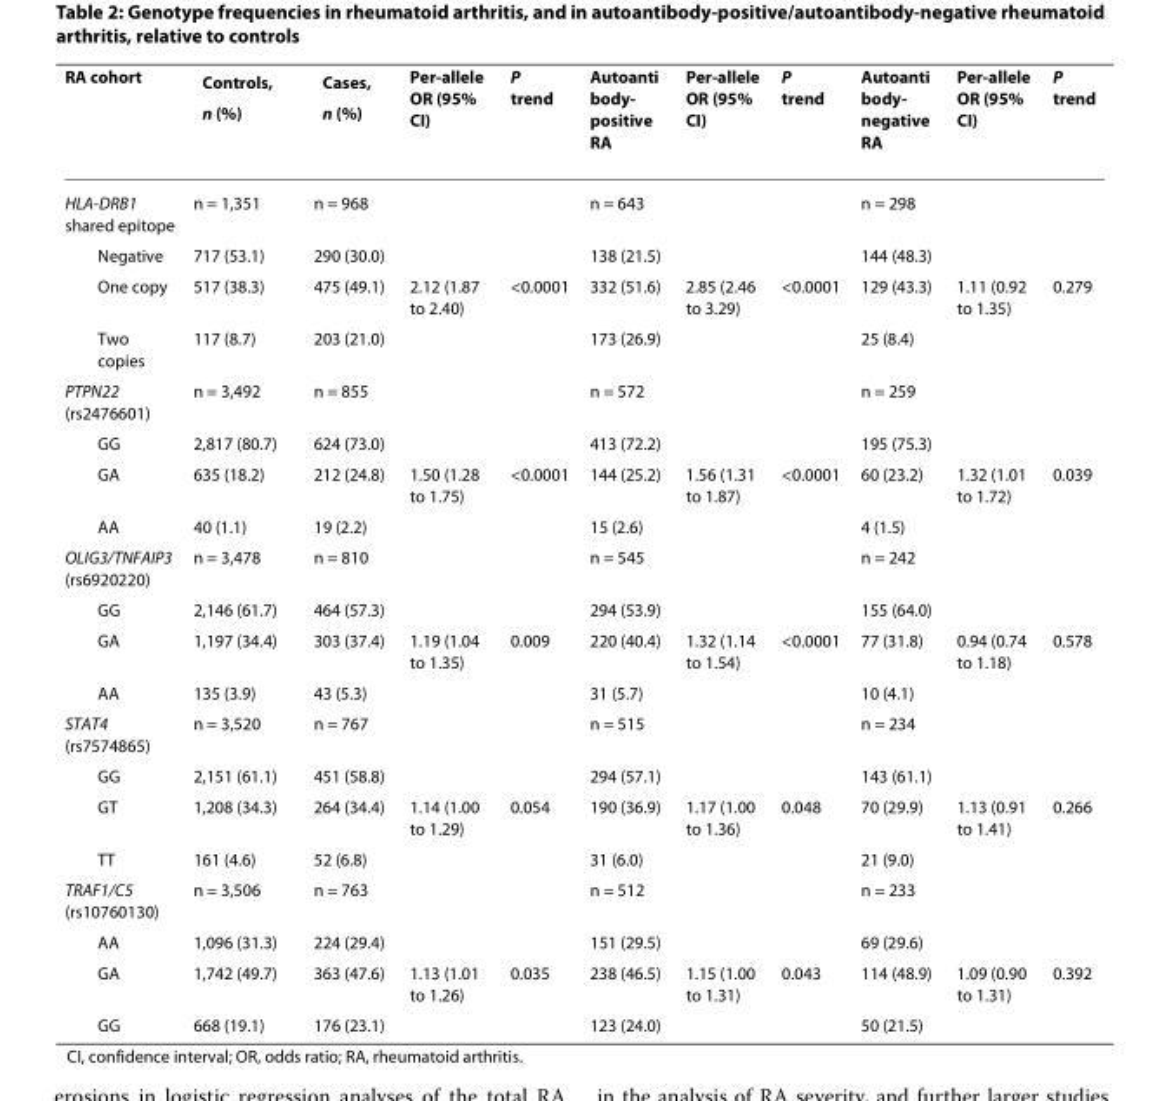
<table><thead><tr><td>RA cohort</td><td>Controls, n (%)</td><td>Cases, n (%)</td><td>Per-allele OR (95% CI)</td><td>P trend</td><td>Autoanti body- positive RA</td><td>Per-allele OR (95% CI)</td><td>P trend</td><td>Autoanti body- negative RA</td><td>Per-allele OR (95% CI)</td><td>P trend</td></tr></thead><tbody><tr><td>HLA-DRB1 shared epitope</td><td>n = 1,351</td><td>n = 968</td><td></td><td></td><td>n = 643</td><td></td><td></td><td>n = 298</td><td></td><td></td></tr><tr><td>Negative</td><td>717 (53.1)</td><td>290 (30.0)</td><td></td><td></td><td>138 (21.5)</td><td></td><td></td><td>144 (48.3)</td><td></td><td></td></tr><tr><td>One copy</td><td>517 (38.3)</td><td>475 (49.1)</td><td>2.12 (1.87 to 2.40)</td><td>&lt;0.0001</td><td>332 (51.6)</td><td>2.85 (2.46 to 3.29)</td><td>&lt;0.0001</td><td>129 (43.3)</td><td>1.11 (0.92 to 1.35)</td><td>0.279</td></tr><tr><td>Two copies</td><td>117 (8.7)</td><td>203 (21.0)</td><td></td><td></td><td>173 (26.9)</td><td></td><td></td><td>25 (8.4)</td><td></td><td></td></tr><tr><td>PTPN22 (rs2476601)</td><td>n = 3,492</td><td>n = 855</td><td></td><td></td><td>n = 572</td><td></td><td></td><td>n = 259</td><td></td><td></td></tr><tr><td>GG</td><td>2,817 (80.7)</td><td>624 (73.0)</td><td></td><td></td><td>413 (72.2)</td><td></td><td></td><td>195 (75.3)</td><td></td><td></td></tr><tr><td>GA</td><td>635 (18.2)</td><td>212 (24.8)</td><td>1.50 (1.28 to 1.75)</td><td>&lt;0.0001</td><td>144 (25.2)</td><td>1.56 (1.31 to 1.87)</td><td>&lt;0.0001</td><td>60 (23.2)</td><td>1.32 (1.01 to 1.72)</td><td>0.039</td></tr><tr><td>AA</td><td>40 (1.1)</td><td>19 (2.2)</td><td></td><td></td><td>15 (2.6)</td><td></td><td></td><td>4 (1.5)</td><td></td><td></td></tr><tr><td>OLIG3/TNFAIP3 (rs6920220)</td><td>n = 3,478</td><td>n = 810</td><td></td><td></td><td>n = 545</td><td></td><td></td><td>n = 242</td><td></td><td></td></tr><tr><td>GG</td><td>2,146 (61.7)</td><td>464 (57.3)</td><td></td><td></td><td>294 (53.9)</td><td></td><td></td><td>155 (64.0)</td><td></td><td></td></tr><tr><td>GA</td><td>1,197 (34.4)</td><td>303 (37.4)</td><td>1.19 (1.04 to 1.35)</td><td>0.009</td><td>220 (40.4)</td><td>1.32 (1.14 to 1.54)</td><td>&lt;0.0001</td><td>77 (31.8)</td><td>0.94 (0.74 to 1.18)</td><td>0.578</td></tr><tr><td>AA</td><td>135 (3.9)</td><td>43 (5.3)</td><td></td><td></td><td>31 (5.7)</td><td></td><td></td><td>10 (4.1)</td><td></td><td></td></tr><tr><td>STAT4 (rs7574865)</td><td>n = 3,520</td><td>n = 767</td><td></td><td></td><td>n = 515</td><td></td><td></td><td>n = 234</td><td></td><td></td></tr><tr><td>GG</td><td>2,151 (61.1)</td><td>451 (58.8)</td><td></td><td></td><td>294 (57.1)</td><td></td><td></td><td>143 (61.1)</td><td></td><td></td></tr><tr><td>GT</td><td>1,208 (34.3)</td><td>264 (34.4)</td><td>1.14 (1.00 to 1.29)</td><td>0.054</td><td>190 (36.9)</td><td>1.17 (1.00 to 1.36)</td><td>0.048</td><td>70 (29.9)</td><td>1.13 (0.91 to 1.41)</td><td>0.266</td></tr><tr><td>TT</td><td>161 (4.6)</td><td>52 (6.8)</td><td></td><td></td><td>31 (6.0)</td><td></td><td></td><td>21 (9.0)</td><td></td><td></td></tr><tr><td>TRAF1/C5 (rs10760130)</td><td>n = 3,506</td><td>n = 763</td><td></td><td></td><td>n = 512</td><td></td><td></td><td>n = 233</td><td></td><td></td></tr><tr><td>AA</td><td>1,096 (31.3)</td><td>224 (29.4)</td><td></td><td></td><td>151 (29.5)</td><td></td><td></td><td>69 (29.6)</td><td></td><td></td></tr><tr><td>GA</td><td>1,742 (49.7)</td><td>363 (47.6)</td><td>1.13 (1.01 to 1.26)</td><td>0.035</td><td>238 (46.5)</td><td>1.15 (1.00 to 1.31)</td><td>0.043</td><td>114 (48.9)</td><td>1.09 (0.90 to 1.31)</td><td>0.392</td></tr><tr><td>GG</td><td>668 (19.1)</td><td>176 (23.1)</td><td></td><td></td><td>123 (24.0)</td><td></td><td></td><td>50 (21.5)</td><td></td><td></td></tr></tbody></table>